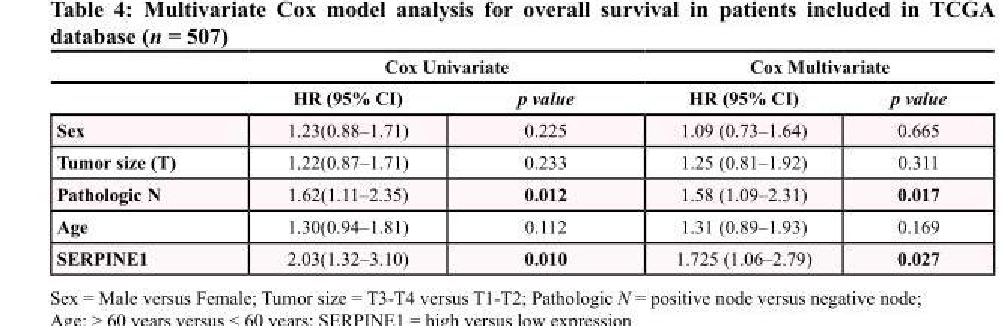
<table><thead><tr><td rowspan="2"></td><td colspan="2">Cox Univariate</td><td colspan="2">Cox Multivariate</td></tr><tr><td>HR (95% CI)</td><td>p value</td><td>HR (95% CI)</td><td>p value</td></tr></thead><tbody><tr><td>Sex</td><td>1.23(0.88–1.71)</td><td>0.225</td><td>1.09 (0.73–1.64)</td><td>0.665</td></tr><tr><td>Tumor size (T)</td><td>1.22(0.87–1.71)</td><td>0.233</td><td>1.25 (0.81–1.92)</td><td>0.311</td></tr><tr><td>Pathologic N</td><td>1.62(1.11–2.35)</td><td>0.012</td><td>1.58 (1.09–2.31)</td><td>0.017</td></tr><tr><td>Age</td><td>1.30(0.94–1.81)</td><td>0.112</td><td>1.31 (0.89–1.93)</td><td>0.169</td></tr><tr><td>SERPINE1</td><td>2.03(1.32–3.10)</td><td>0.010</td><td>1.725 (1.06–2.79)</td><td>0.027</td></tr></tbody></table>